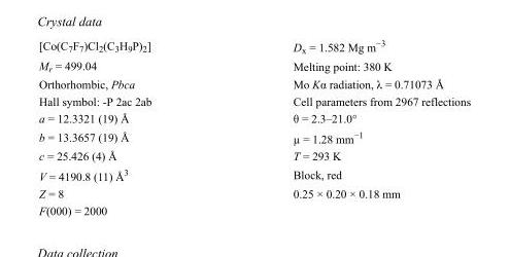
<table><tbody><tr><td>[Co(C<sub>7</sub>F<sub>7</sub>)Cl<sub>2</sub>(C<sub>3</sub>H<sub>9</sub>P)<sub>2</sub>]</td><td>D<sub>x</sub> = 1.582 Mg m<sup>−3</sup></td></tr><tr><td>M<sub>r</sub> = 499.04</td><td>Melting point: 380 K</td></tr><tr><td>Orthorhombic, Pbca</td><td>Mo Kα radiation, λ = 0.71073 Å</td></tr><tr><td>Hall symbol: -P 2ac 2ab</td><td>Cell parameters from 2967 reflections</td></tr><tr><td>a = 12.3321 (19) Å</td><td>θ = 2.3–21.0°</td></tr><tr><td>b = 13.3657 (19) Å</td><td>µ = 1.28 mm<sup>−1</sup></td></tr><tr><td>c = 25.426 (4) Å</td><td>T = 293 K</td></tr><tr><td>V = 4190.8 (11) Å<sup>3</sup></td><td>Block, red</td></tr><tr><td>Z = 8</td><td>0.25 × 0.20 × 0.18 mm</td></tr><tr><td>F(000) = 2000</td><td></td></tr></tbody></table>